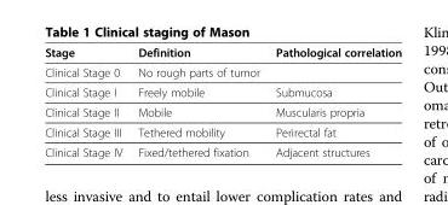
<table><thead><tr><td>Stage</td><td>Definition</td><td>Pathological correlation</td></tr></thead><tbody><tr><td>Clinical Stage 0</td><td>No rough parts of tumor</td><td></td></tr><tr><td>Clinical Stage I</td><td>Freely mobile</td><td>Submucosa</td></tr><tr><td>Clinical Stage II</td><td>Mobile</td><td>Muscularis propria</td></tr><tr><td>Clinical Stage III</td><td>Tethered mobility</td><td>Perirectal fat</td></tr><tr><td>Clinical Stage IV</td><td>Fixed/tethered fixation</td><td>Adjacent structures</td></tr></tbody></table>